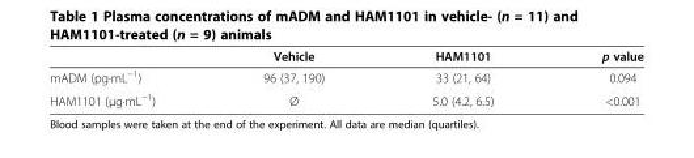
<table><thead><tr><td></td><td>Vehicle</td><td>HAM1101</td><td>p value</td></tr></thead><tbody><tr><td>mADM (pg·mL<sup>−1</sup>)</td><td>96 (37, 190)</td><td>33 (21, 64)</td><td>0.094</td></tr><tr><td>HAM1101 (μg·mL<sup>−1</sup>)</td><td>Ø</td><td>5.0 (4.2, 6.5)</td><td>&lt;0.001</td></tr></tbody></table>